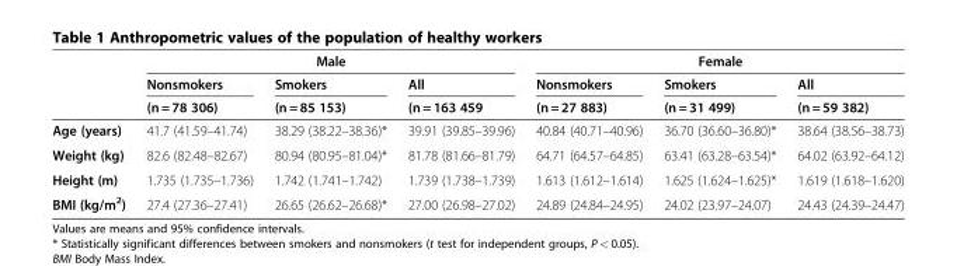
<table><thead><tr><td rowspan="3"></td><td colspan="3">Male</td><td colspan="3">Female</td></tr><tr><td rowspan="2">Nonsmokers (n = 78 306)</td><td rowspan="2">Smokers (n = 85 153)</td><td rowspan="2">All (n = 163 459</td><td rowspan="2">Nonsmokers (n = 27 883)</td><td rowspan="2">Smokers (n = 31 499)</td><td rowspan="2">All (n = 59 382)</td></tr><tr></tr></thead><tbody><tr><td>Age (years)</td><td>41.7 (41.59–41.74)</td><td>38.29 (38.22–38.36)*</td><td>39.91 (39.85–39.96)</td><td>40.84 (40.71–40.96)</td><td>36.70 (36.60–36.80)*</td><td>38.64 (38.56–38.73)</td></tr><tr><td>Weight (kg)</td><td>82.6 (82.48–82.67)</td><td>80.94 (80.95–81.04)*</td><td>81.78 (81.66–81.79)</td><td>64.71 (64.57–64.85)</td><td>63.41 (63.28–63.54)*</td><td>64.02 (63.92–64.12)</td></tr><tr><td>Height (m)</td><td>1.735 (1.735–1.736)</td><td>1.742 (1.741–1.742)</td><td>1.739 (1.738–1.739)</td><td>1.613 (1.612–1.614)</td><td>1.625 (1.624–1.625)*</td><td>1.619 (1.618–1.620)</td></tr><tr><td>BMI (kg/m<sup>2</sup>)</td><td>27.4 (27.36–27.41)</td><td>26.65 (26.62–26.68)*</td><td>27.00 (26.98–27.02)</td><td>24.89 (24.84–24.95)</td><td>24.02 (23.97–24.07)</td><td>24.43 (24.39–24.47)</td></tr></tbody></table>